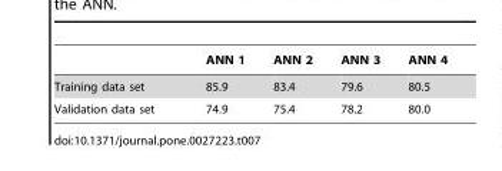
<table><thead><tr><td></td><td>ANN 1</td><td>ANN 2</td><td>ANN 3</td><td>ANN 4</td></tr></thead><tbody><tr><td>Training data set</td><td>85.9</td><td>83.4</td><td>79.6</td><td>80.5</td></tr><tr><td>Validation data set</td><td>74.9</td><td>75.4</td><td>78.2</td><td>80.0</td></tr></tbody></table>